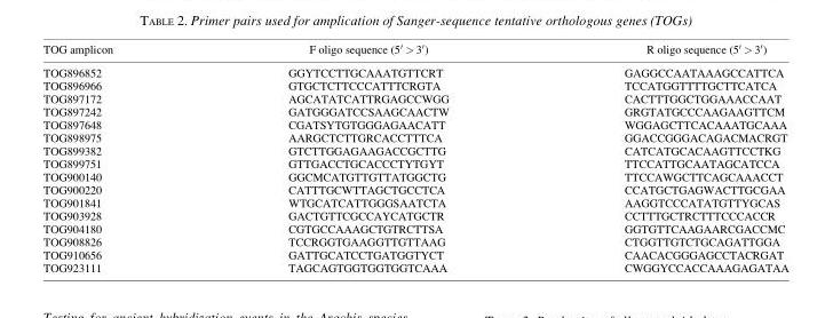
<table><thead><tr><td>TOG amplicon</td><td>F oligo sequence (5′ &gt; 3′)</td><td>R oligo sequence (5′ &gt; 3′)</td></tr></thead><tbody><tr><td>TOG896852</td><td>GGYTCCTTGCAAATGTTCRT</td><td>GAGGCCAATAAAGCCATTCA</td></tr><tr><td>TOG896966</td><td>GTGCTCTTCCCATTTCRGTA</td><td>TCCATGGTTTTGCTTCATCA</td></tr><tr><td>TOG897172</td><td>AGCATATCATTRGAGCCWGG</td><td>CACTTTGGCTGGAAACCAAT</td></tr><tr><td>TOG897242</td><td>GATGGGATCCSAAGCAACTW</td><td>GRGTATGCCCAAGAAGTTCM</td></tr><tr><td>TOG897648</td><td>CGATSYTGTGGGAGAACATT</td><td>WGGAGCTTCACAAATGCAAA</td></tr><tr><td>TOG898975</td><td>AARGCTCTTGRCACCTTTCA</td><td>GGACCGGGACAGACMACRGT</td></tr><tr><td>TOG899382</td><td>GTCTTGGAGAAGACCGCTTG</td><td>CATCATGCACAAGTTCCTKG</td></tr><tr><td>TOG899751</td><td>GTTGACCTGCACCCTYTGYT</td><td>TTCCATTGCAATAGCATCCA</td></tr><tr><td>TOG900140</td><td>GGCMCATGTTGTTATGGCTG</td><td>TTCCAWGCTTCAGCAAACCT</td></tr><tr><td>TOG900220</td><td>CATTTGCWTTAGCTGCCTCA</td><td>CCATGCTGAGWACTTGCGAA</td></tr><tr><td>TOG901841</td><td>WTGCATCATTGGGSAATCTA</td><td>AAGGTCCCATATGTTYGCAS</td></tr><tr><td>TOG903928</td><td>GACTGTTCGCCAYCATGCTR</td><td>CCTTTGCTRCTTTCCCACCR</td></tr><tr><td>TOG904180</td><td>CGTGCCAAAGCTGTRCTTSA</td><td>GGTGTTCAAGAARCGACCMC</td></tr><tr><td>TOG908826</td><td>TCCRGGTGAAGGTTGTTAAG</td><td>CTGGTTGTCTGCAGATTGGA</td></tr><tr><td>TOG910656</td><td>GATTGCATCCTGATGGTYCT</td><td>CAACACGGGAGCCTACRGAT</td></tr><tr><td>TOG923111</td><td>TAGCAGTGGTGGTGGTCAAA</td><td>CWGGYCCACCAAAGAGATAA</td></tr></tbody></table>